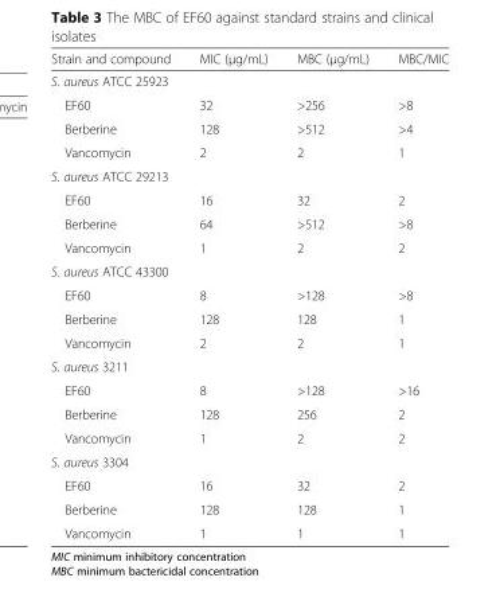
<table><thead><tr><td>Strain and compound</td><td>MIC (μg/mL)</td><td>MBC (μg/mL)</td><td>MBC/MIC</td></tr></thead><tbody><tr><td colspan="4">S. aureus ATCC 25923</td></tr><tr><td>EF60</td><td>32</td><td>&gt;256</td><td>&gt;8</td></tr><tr><td>Berberine</td><td>128</td><td>&gt;512</td><td>&gt;4</td></tr><tr><td>Vancomycin</td><td>2</td><td>2</td><td>1</td></tr><tr><td colspan="4">S. aureus ATCC 29213</td></tr><tr><td>EF60</td><td>16</td><td>32</td><td>2</td></tr><tr><td>Berberine</td><td>64</td><td>&gt;512</td><td>&gt;8</td></tr><tr><td>Vancomycin</td><td>1</td><td>2</td><td>2</td></tr><tr><td colspan="4">S. aureus ATCC 43300</td></tr><tr><td>EF60</td><td>8</td><td>&gt;128</td><td>&gt;8</td></tr><tr><td>Berberine</td><td>128</td><td>128</td><td>1</td></tr><tr><td>Vancomycin</td><td>2</td><td>2</td><td>1</td></tr><tr><td colspan="4">S. aureus 3211</td></tr><tr><td>EF60</td><td>8</td><td>&gt;128</td><td>&gt;16</td></tr><tr><td>Berberine</td><td>128</td><td>256</td><td>2</td></tr><tr><td>Vancomycin</td><td>1</td><td>2</td><td>2</td></tr><tr><td colspan="4">S. aureus 3304</td></tr><tr><td>EF60</td><td>16</td><td>32</td><td>2</td></tr><tr><td>Berberine</td><td>128</td><td>128</td><td>1</td></tr><tr><td>Vancomycin</td><td>1</td><td>1</td><td>1</td></tr></tbody></table>